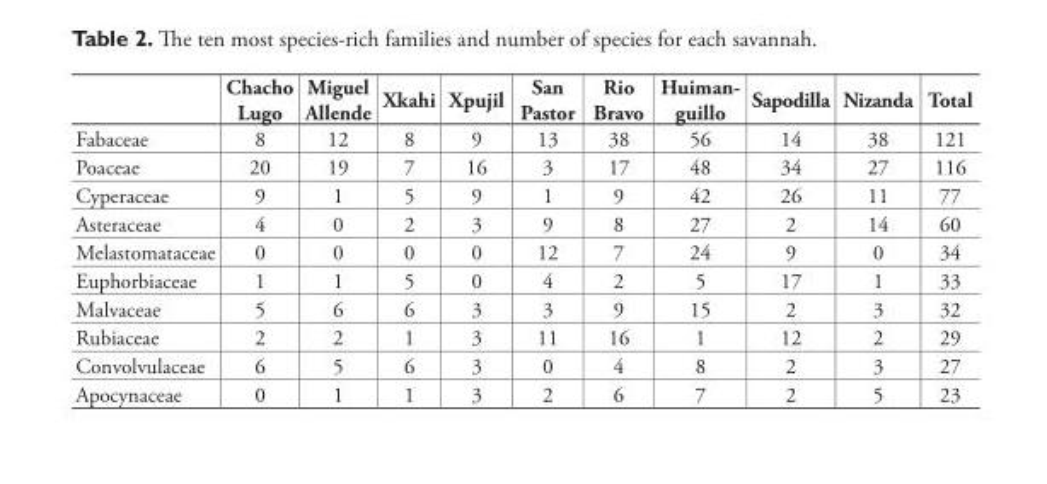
<table><thead><tr><td></td><td>Chacho Lugo</td><td>Miguel Allende</td><td>Xkahi</td><td>Xpujil</td><td>San Pastor</td><td>Rio Bravo</td><td>Huiman- guillo</td><td>Sapodilla</td><td>Nizanda</td><td>Total</td></tr></thead><tbody><tr><td>Fabaceae</td><td>8</td><td>12</td><td>8</td><td>9</td><td>13</td><td>38</td><td>56</td><td>14</td><td>38</td><td>121</td></tr><tr><td>Poaceae</td><td>20</td><td>19</td><td>7</td><td>16</td><td>3</td><td>17</td><td>48</td><td>34</td><td>27</td><td>116</td></tr><tr><td>Cyperaceae</td><td>9</td><td>1</td><td>5</td><td>9</td><td>1</td><td>9</td><td>42</td><td>26</td><td>11</td><td>77</td></tr><tr><td>Asteraceae</td><td>4</td><td>0</td><td>2</td><td>3</td><td>9</td><td>8</td><td>27</td><td>2</td><td>14</td><td>60</td></tr><tr><td>Melastomataceae</td><td>0</td><td>0</td><td>0</td><td>0</td><td>12</td><td>7</td><td>24</td><td>9</td><td>0</td><td>34</td></tr><tr><td>Euphorbiaceae</td><td>1</td><td>1</td><td>5</td><td>0</td><td>4</td><td>2</td><td>5</td><td>17</td><td>1</td><td>33</td></tr><tr><td>Malvaceae</td><td>5</td><td>6</td><td>6</td><td>3</td><td>3</td><td>9</td><td>15</td><td>2</td><td>3</td><td>32</td></tr><tr><td>Rubiaceae</td><td>2</td><td>2</td><td>1</td><td>3</td><td>11</td><td>16</td><td>1</td><td>12</td><td>2</td><td>29</td></tr><tr><td>Convolvulaceae</td><td>6</td><td>5</td><td>6</td><td>3</td><td>0</td><td>4</td><td>8</td><td>2</td><td>3</td><td>27</td></tr><tr><td>Apocynaceae</td><td>0</td><td>1</td><td>1</td><td>3</td><td>2</td><td>6</td><td>7</td><td>2</td><td>5</td><td>23</td></tr></tbody></table>